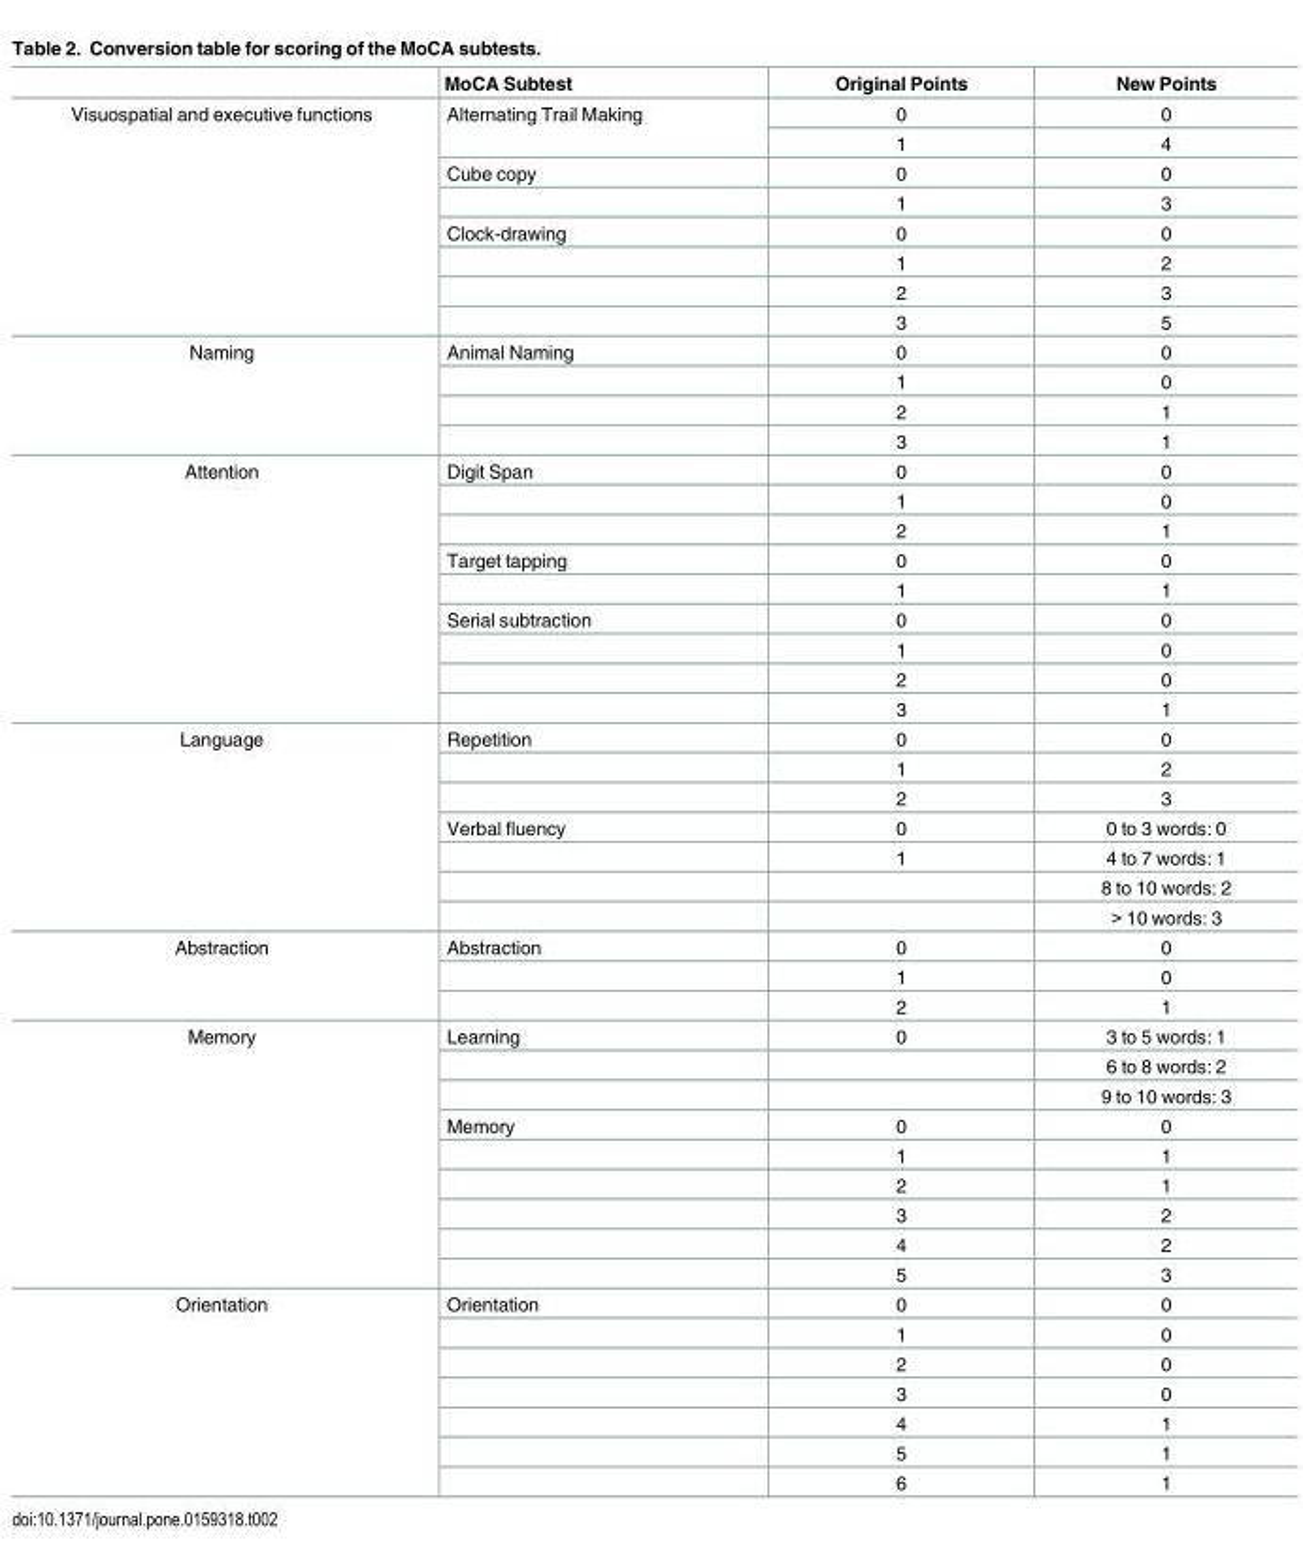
<table><thead><tr><td></td><td>MoCA Subtest</td><td>Original Points</td><td>New Points</td></tr></thead><tbody><tr><td rowspan="8">Visuospatial and executive functions</td><td rowspan="2">Alternating Trail Making</td><td>0</td><td>0</td></tr><tr><td>1</td><td>4</td></tr><tr><td>Cube copy</td><td>0</td><td>0</td></tr><tr><td></td><td>1</td><td>3</td></tr><tr><td>Clock-drawing</td><td>0</td><td>0</td></tr><tr><td></td><td>1</td><td>2</td></tr><tr><td></td><td>2</td><td>3</td></tr><tr><td></td><td>3</td><td>5</td></tr><tr><td rowspan="4">Naming</td><td>Animal Naming</td><td>0</td><td>0</td></tr><tr><td></td><td>1</td><td>0</td></tr><tr><td></td><td>2</td><td>1</td></tr><tr><td></td><td>3</td><td>1</td></tr><tr><td rowspan="9">Attention</td><td>Digit Span</td><td>0</td><td>0</td></tr><tr><td></td><td>1</td><td>0</td></tr><tr><td></td><td>2</td><td>1</td></tr><tr><td>Target tapping</td><td>0</td><td>0</td></tr><tr><td></td><td>1</td><td>1</td></tr><tr><td>Serial subtraction</td><td>0</td><td>0</td></tr><tr><td></td><td>1</td><td>0</td></tr><tr><td></td><td>2</td><td>0</td></tr><tr><td></td><td>3</td><td>1</td></tr><tr><td rowspan="7">Language</td><td>Repetition</td><td>0</td><td>0</td></tr><tr><td></td><td>1</td><td>2</td></tr><tr><td></td><td>2</td><td>3</td></tr><tr><td>Verbal fluency</td><td>0</td><td>0 to 3 words: 0</td></tr><tr><td></td><td>1</td><td>4 to 7 words: 1</td></tr><tr><td></td><td></td><td>8 to 10 words: 2</td></tr><tr><td></td><td></td><td>&gt; 10 words: 3</td></tr><tr><td rowspan="3">Abstraction</td><td>Abstraction</td><td>0</td><td>0</td></tr><tr><td></td><td>1</td><td>0</td></tr><tr><td></td><td>2</td><td>1</td></tr><tr><td rowspan="9">Memory</td><td>Learning</td><td>0</td><td>3 to 5 words: 1</td></tr><tr><td></td><td></td><td>6 to 8 words: 2</td></tr><tr><td></td><td></td><td>9 to 10 words: 3</td></tr><tr><td>Memory</td><td>0</td><td>0</td></tr><tr><td></td><td>1</td><td>1</td></tr><tr><td></td><td>2</td><td>1</td></tr><tr><td></td><td>3</td><td>2</td></tr><tr><td></td><td>4</td><td>2</td></tr><tr><td></td><td>5</td><td>3</td></tr><tr><td rowspan="7">Orientation</td><td>Orientation</td><td>0</td><td>0</td></tr><tr><td></td><td>1</td><td>0</td></tr><tr><td></td><td>2</td><td>0</td></tr><tr><td></td><td>3</td><td>0</td></tr><tr><td></td><td>4</td><td>1</td></tr><tr><td></td><td>5</td><td>1</td></tr><tr><td></td><td>6</td><td>1</td></tr></tbody></table>